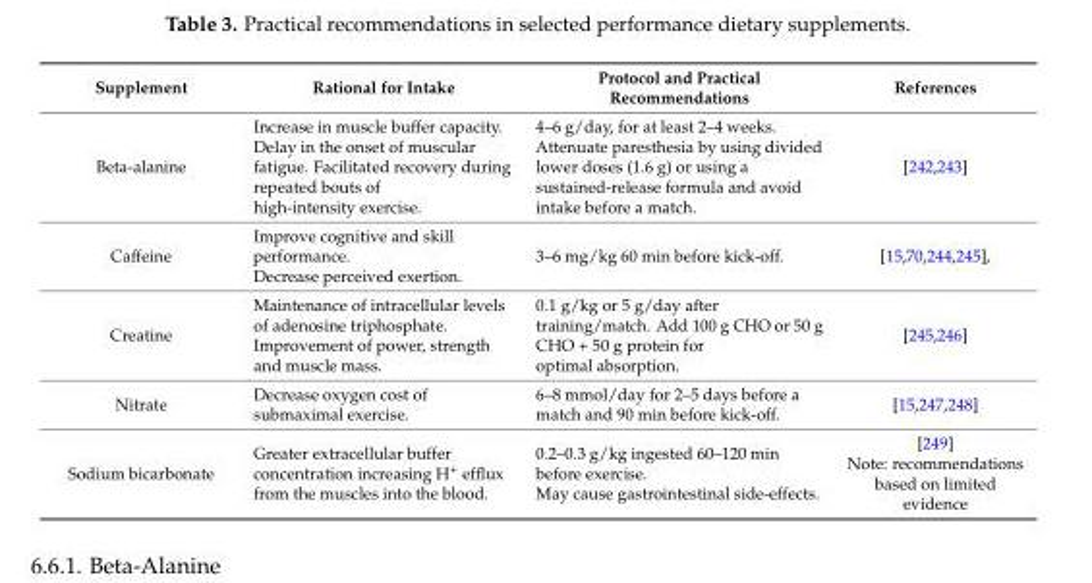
<table><thead><tr><td>Supplement</td><td>Rational for Intake</td><td>Protocol and Practical Recommendations</td><td>References</td></tr></thead><tbody><tr><td>Beta-alanine</td><td>Increase in muscle buffer capacity. Delay in the onset of muscular fatigue. Facilitated recovery during repeated bouts of high-intensity exercise.</td><td>4–6 g/day, for at least 2–4 weeks. Attenuate paresthesia by using divided lower doses (1.6 g) or using a sustained-release formula and avoid intake before a match.</td><td>[242,243]</td></tr><tr><td>Caffeine</td><td>Improve cognitive and skill performance. Decrease perceived exertion.</td><td>3–6 mg/kg 60 min before kick-off.</td><td>[15,70,244,245],</td></tr><tr><td>Creatine</td><td>Maintenance of intracellular levels of adenosine triphosphate. Improvement of power, strength and muscle mass.</td><td>0.1 g/kg or 5 g/day after training/match. Add 100 g CHO or 50 g CHO + 50 g protein for optimal absorption.</td><td>[245,246]</td></tr><tr><td>Nitrate</td><td>Decrease oxygen cost of submaximal exercise.</td><td>6–8 mmol/day for 2–5 days before a match and 90 min before kick-off.</td><td>[15,247,248]</td></tr><tr><td>Sodium bicarbonate</td><td>Greater extracellular buffer concentration increasing H<sup>+</sup> efflux from the muscles into the blood.</td><td>0.2–0.3 g/kg ingested 60–120 min before exercise. May cause gastrointestinal side-effects.</td><td>[249] Note: recommendations based on limited evidence</td></tr></tbody></table>